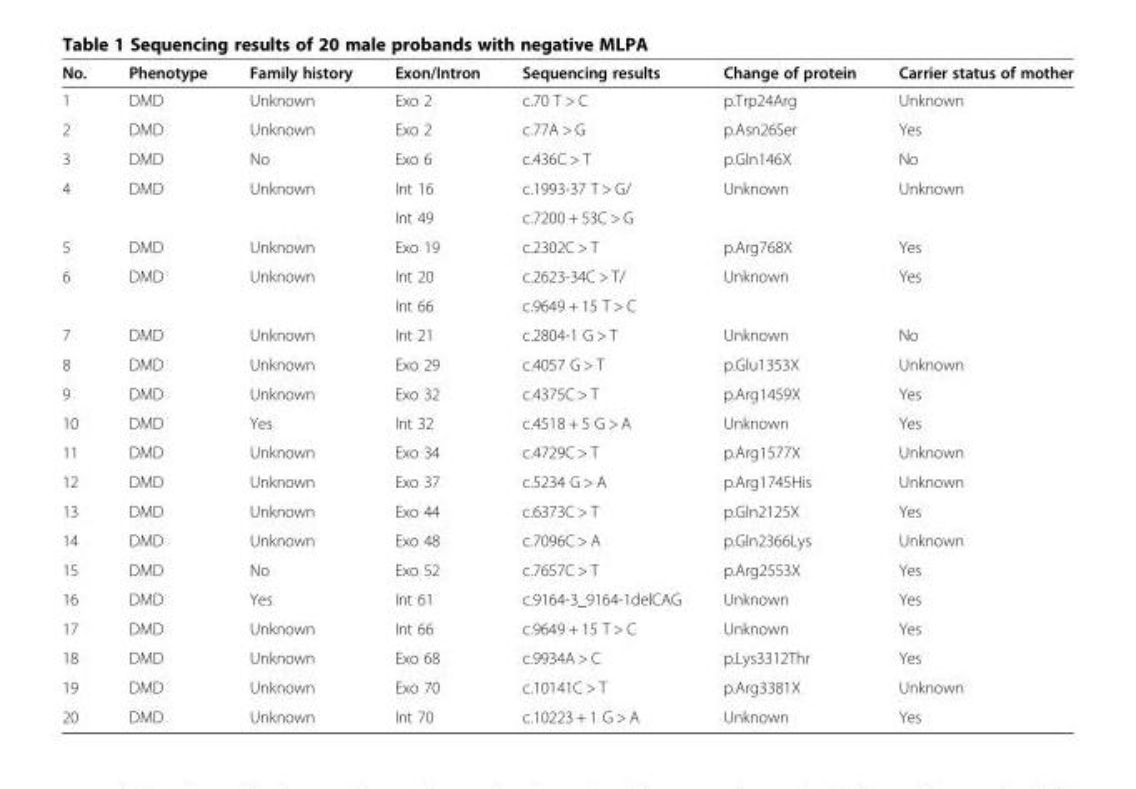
<table><thead><tr><td>No.</td><td>Phenotype</td><td>Family history</td><td>Exon/Intron</td><td>Sequencing results</td><td>Change of protein</td><td>Carrier status of mother</td></tr></thead><tbody><tr><td>1</td><td>DMD</td><td>Unknown</td><td>Exo 2</td><td>c.70 T &gt; C</td><td>p.Trp24Arg</td><td>Unknown</td></tr><tr><td>2</td><td>DMD</td><td>Unknown</td><td>Exo 2</td><td>c.77A &gt; G</td><td>p.Asn26Ser</td><td>Yes</td></tr><tr><td>3</td><td>DMD</td><td>No</td><td>Exo 6</td><td>c.436C &gt; T</td><td>p.Gln146X</td><td>No</td></tr><tr><td rowspan="2">4</td><td rowspan="2">DMD</td><td rowspan="2">Unknown</td><td>Int 16</td><td>c.1993-37 T &gt; G/</td><td rowspan="2">Unknown</td><td rowspan="2">Unknown</td></tr><tr><td>Int 49</td><td>c.7200 + 53C &gt; G</td></tr><tr><td>5</td><td>DMD</td><td>Unknown</td><td>Exo 19</td><td>c.2302C &gt; T</td><td>p.Arg768X</td><td>Yes</td></tr><tr><td rowspan="2">6</td><td rowspan="2">DMD</td><td rowspan="2">Unknown</td><td>Int 20</td><td>c.2623-34C &gt; T/</td><td rowspan="2">Unknown</td><td rowspan="2">Yes</td></tr><tr><td>Int 66</td><td>c.9649 + 15 T &gt; C</td></tr><tr><td>7</td><td>DMD</td><td>Unknown</td><td>Int 21</td><td>c.2804-1 G &gt; T</td><td>Unknown</td><td>No</td></tr><tr><td>8</td><td>DMD</td><td>Unknown</td><td>Exo 29</td><td>c.4057 G &gt; T</td><td>p.Glu1353X</td><td>Unknown</td></tr><tr><td>9</td><td>DMD</td><td>Unknown</td><td>Exo 32</td><td>c.4375C &gt; T</td><td>p.Arg1459X</td><td>Yes</td></tr><tr><td>10</td><td>DMD</td><td>Yes</td><td>Int 32</td><td>c.4518 + 5 G &gt; A</td><td>Unknown</td><td>Yes</td></tr><tr><td>11</td><td>DMD</td><td>Unknown</td><td>Exo 34</td><td>c.4729C &gt; T</td><td>p.Arg1577X</td><td>Unknown</td></tr><tr><td>12</td><td>DMD</td><td>Unknown</td><td>Exo 37</td><td>c.5234 G &gt; A</td><td>p.Arg1745His</td><td>Unknown</td></tr><tr><td>13</td><td>DMD</td><td>Unknown</td><td>Exo 44</td><td>c.6373C &gt; T</td><td>p.Gln2125X</td><td>Yes</td></tr><tr><td>14</td><td>DMD</td><td>Unknown</td><td>Exo 48</td><td>c.7096C &gt; A</td><td>p.Gln2366Lys</td><td>Unknown</td></tr><tr><td>15</td><td>DMD</td><td>No</td><td>Exo 52</td><td>c.7657C &gt; T</td><td>p.Arg2553X</td><td>Yes</td></tr><tr><td>16</td><td>DMD</td><td>Yes</td><td>Int 61</td><td>c.9164-3_9164-1delCAG</td><td>Unknown</td><td>Yes</td></tr><tr><td>17</td><td>DMD</td><td>Unknown</td><td>Int 66</td><td>c.9649 + 15 T &gt; C</td><td>Unknown</td><td>Yes</td></tr><tr><td>18</td><td>DMD</td><td>Unknown</td><td>Exo 68</td><td>c.9934A &gt; C</td><td>p.Lys3312Thr</td><td>Yes</td></tr><tr><td>19</td><td>DMD</td><td>Unknown</td><td>Exo 70</td><td>c.10141C &gt; T</td><td>p.Arg3381X</td><td>Unknown</td></tr><tr><td>20</td><td>DMD</td><td>Unknown</td><td>Int 70</td><td>c.10223 + 1 G &gt; A</td><td>Unknown</td><td>Yes</td></tr></tbody></table>